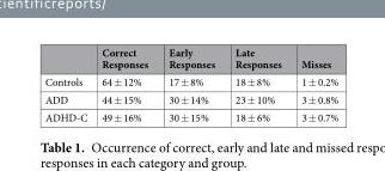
<table><thead><tr><td></td><td>Correct Responses</td><td>Early Responses</td><td>Late Responses</td><td>Misses</td></tr></thead><tbody><tr><td>Controls</td><td>64 ± 12%</td><td>17 ± 8%</td><td>18 ± 8%</td><td>1 ± 0.2%</td></tr><tr><td>ADD</td><td>44 ± 15%</td><td>30 ± 14%</td><td>23 ± 10%</td><td>3 ± 0.8%</td></tr><tr><td>ADHD-C</td><td>49 ± 16%</td><td>30 ± 15%</td><td>18 ± 6%</td><td>3 ± 0.7%</td></tr></tbody></table>